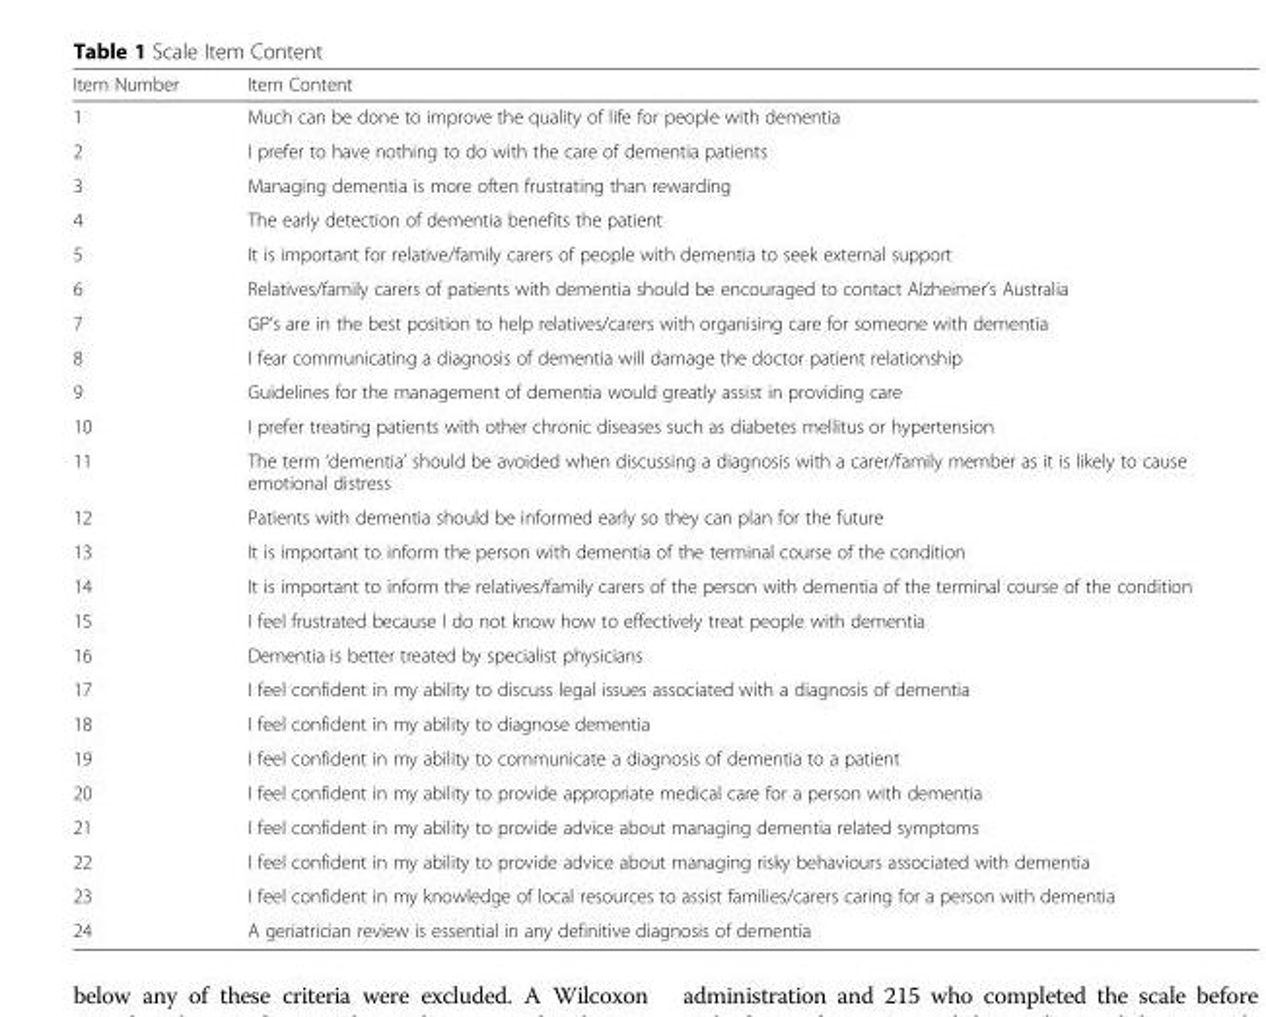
<table><thead><tr><td>Item Number</td><td>Item Content</td></tr></thead><tbody><tr><td>1</td><td>Much can be done to improve the quality of life for people with dementia</td></tr><tr><td>2</td><td>I prefer to have nothing to do with the care of dementia patients</td></tr><tr><td>3</td><td>Managing dementia is more often frustrating than rewarding</td></tr><tr><td>4</td><td>The early detection of dementia benefits the patient</td></tr><tr><td>5</td><td>It is important for relative/family carers of people with dementia to seek external support</td></tr><tr><td>6</td><td>Relatives/family carers of patients with dementia should be encouraged to contact Alzheimer’s Australia</td></tr><tr><td>7</td><td>GP’s are in the best position to help relatives/carers with organising care for someone with dementia</td></tr><tr><td>8</td><td>I fear communicating a diagnosis of dementia will damage the doctor patient relationship</td></tr><tr><td>9</td><td>Guidelines for the management of dementia would greatly assist in providing care</td></tr><tr><td>10</td><td>I prefer treating patients with other chronic diseases such as diabetes mellitus or hypertension</td></tr><tr><td>11</td><td>The term ‘dementia’ should be avoided when discussing a diagnosis with a carer/family member as it is likely to cause emotional distress</td></tr><tr><td>12</td><td>Patients with dementia should be informed early so they can plan for the future</td></tr><tr><td>13</td><td>It is important to inform the person with dementia of the terminal course of the condition</td></tr><tr><td>14</td><td>It is important to inform the relatives/family carers of the person with dementia of the terminal course of the condition</td></tr><tr><td>15</td><td>I feel frustrated because I do not know how to effectively treat people with dementia</td></tr><tr><td>16</td><td>Dementia is better treated by specialist physicians</td></tr><tr><td>17</td><td>I feel confident in my ability to discuss legal issues associated with a diagnosis of dementia</td></tr><tr><td>18</td><td>I feel confident in my ability to diagnose dementia</td></tr><tr><td>19</td><td>I feel confident in my ability to communicate a diagnosis of dementia to a patient</td></tr><tr><td>20</td><td>I feel confident in my ability to provide appropriate medical care for a person with dementia</td></tr><tr><td>21</td><td>I feel confident in my ability to provide advice about managing dementia related symptoms</td></tr><tr><td>22</td><td>I feel confident in my ability to provide advice about managing risky behaviours associated with dementia</td></tr><tr><td>23</td><td>I feel confident in my knowledge of local resources to assist families/carers caring for a person with dementia</td></tr><tr><td>24</td><td>A geriatrician review is essential in any definitive diagnosis of dementia</td></tr></tbody></table>